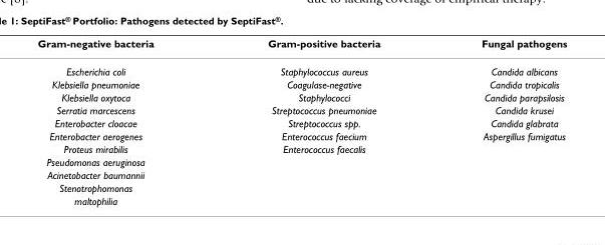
<table><thead><tr><td>Gram-negative bacteria</td><td>Gram-positive bacteria</td><td>Fungal pathogens</td></tr></thead><tbody><tr><td>Escherichia coli</td><td>Staphylococcus aureus</td><td>Candida albicans</td></tr><tr><td>Klebsiella pneumoniae</td><td>Coagulase-negative</td><td>Candida tropicalis</td></tr><tr><td>Klebsiella oxytoca</td><td>Staphylococci</td><td>Candida parapsilosis</td></tr><tr><td>Serratia marcescens</td><td>Streptococcus pneumoniae</td><td>Candida krusei</td></tr><tr><td>Enterobacter cloacae</td><td>Streptococcus spp.</td><td>Candida glabrata</td></tr><tr><td>Enterobacter aerogenes</td><td>Enterococcus faecium</td><td>Aspergillus fumigatus</td></tr><tr><td>Proteus mirabilis</td><td>Enterococcus faecalis</td><td></td></tr><tr><td colspan="3">Pseudomonas aeruginosa</td></tr><tr><td colspan="3">Acinetobacter baumannii</td></tr><tr><td colspan="3">Stenotrophomonas</td></tr><tr><td>maltophilia</td><td></td><td></td></tr></tbody></table>